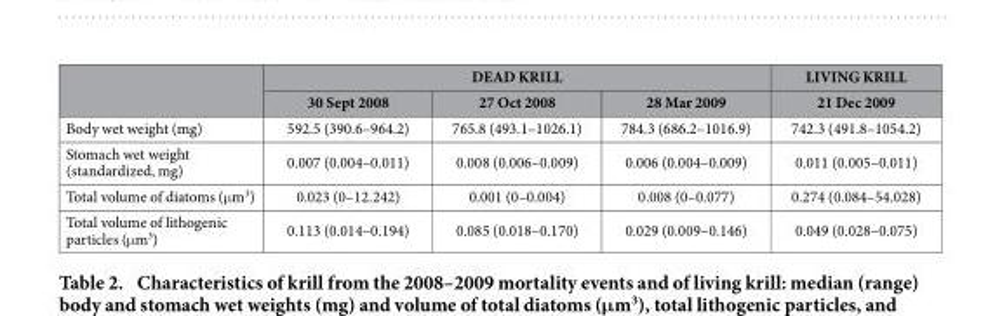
<table><thead><tr><td rowspan="2"></td><td colspan="3">DEAD KRILL</td><td rowspan="2">LIVING KRILL 21 Dec 2009</td></tr><tr><td>30 Sept 2008</td><td>27 Oct 2008</td><td>28 Mar 2009</td></tr></thead><tbody><tr><td>Body wet weight (mg)</td><td>592.5 (390.6–964.2)</td><td>765.8 (493.1–1026.1)</td><td>784.3 (686.2–1016.9)</td><td>742.3 (491.8–1054.2)</td></tr><tr><td>Stomach wet weight (standardized, mg)</td><td>0.007 (0.004–0.011)</td><td>0.008 (0.006–0.009)</td><td>0.006 (0.004–0.009)</td><td>0.011 (0.005–0.011)</td></tr><tr><td>Total volume of diatoms (μ m<sup>3</sup>)</td><td>0.023 (0–12.242)</td><td>0.001 (0–0.004)</td><td>0.008 (0–0.077)</td><td>0.274 (0.084–54.028)</td></tr><tr><td>Total volume of lithogenic particles (μ m<sup>3</sup>)</td><td>0.113 (0.014–0.194)</td><td>0.085 (0.018–0.170)</td><td>0.029 (0.009–0.146)</td><td>0.049 (0.028–0.075)</td></tr></tbody></table>